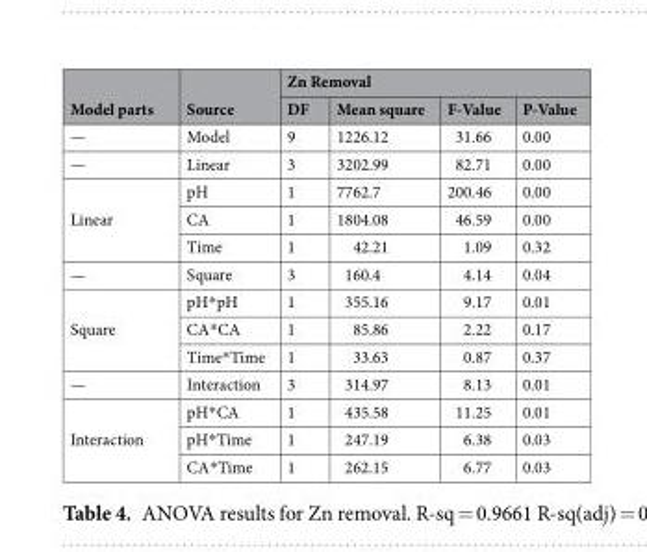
<table><thead><tr><td rowspan="2">Model parts</td><td rowspan="2">Source</td><td colspan="4">Zn Removal</td></tr><tr><td>DF</td><td>Mean square</td><td>F-Value</td><td>P-Value</td></tr></thead><tbody><tr><td>—</td><td>Model</td><td>9</td><td>1226.12</td><td>31.66</td><td>0.00</td></tr><tr><td>—</td><td>Linear</td><td>3</td><td>3202.99</td><td>82.71</td><td>0.00</td></tr><tr><td rowspan="3">Linear</td><td>pH</td><td>1</td><td>7762.7</td><td>200.46</td><td>0.00</td></tr><tr><td>CA</td><td>1</td><td>1804.08</td><td>46.59</td><td>0.00</td></tr><tr><td>Time</td><td>1</td><td>42.21</td><td>1.09</td><td>0.32</td></tr><tr><td>—</td><td>Square</td><td>3</td><td>160.4</td><td>4.14</td><td>0.04</td></tr><tr><td rowspan="3">Square</td><td>pH*pH</td><td>1</td><td>355.16</td><td>9.17</td><td>0.01</td></tr><tr><td>CA*CA</td><td>1</td><td>85.86</td><td>2.22</td><td>0.17</td></tr><tr><td>Time*Time</td><td>1</td><td>33.63</td><td>0.87</td><td>0.37</td></tr><tr><td>—</td><td>Interaction</td><td>3</td><td>314.97</td><td>8.13</td><td>0.01</td></tr><tr><td rowspan="3">Interaction</td><td>pH*CA</td><td>1</td><td>435.58</td><td>11.25</td><td>0.01</td></tr><tr><td>pH*Time</td><td>1</td><td>247.19</td><td>6.38</td><td>0.03</td></tr><tr><td>CA*Time</td><td>1</td><td>262.15</td><td>6.77</td><td>0.03</td></tr></tbody></table>